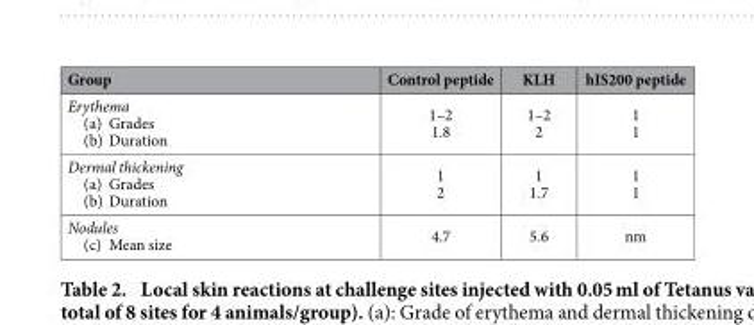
<table><thead><tr><td>Group</td><td>Control peptide</td><td>KLH</td><td>hIS200 peptide</td></tr></thead><tbody><tr><td>Erythema (a) Grades (b) Duration</td><td>1–2 1.8</td><td>1–2 2</td><td>1 1</td></tr><tr><td>Dermal thickening (a) Grades (b) Duration</td><td>1 2</td><td>1 1.7</td><td>1 1</td></tr><tr><td>Nodules (c) Mean size</td><td>4.7</td><td>5.6</td><td>nm</td></tr></tbody></table>